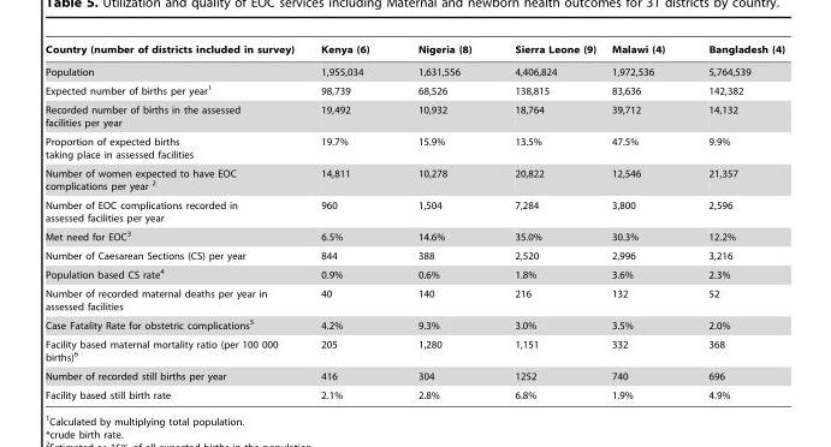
<table><thead><tr><td>Country (number of districts included in survey)</td><td>Kenya (6)</td><td>Nigeria (8)</td><td>Sierra Leone (9)</td><td>Malawi (4)</td><td>Bangladesh (4)</td></tr></thead><tbody><tr><td>Population</td><td>1,955,034</td><td>1,631,556</td><td>4,406,824</td><td>1,972,536</td><td>5,764,539</td></tr><tr><td>Expected number of births per year<sup>1</sup></td><td>98,739</td><td>68,526</td><td>138,815</td><td>83,636</td><td>142,382</td></tr><tr><td>Recorded number of births in the assessed facilities per year</td><td>19,492</td><td>10,932</td><td>18,764</td><td>39,712</td><td>14,132</td></tr><tr><td>Proportion of expected births taking place in assessed facilities</td><td>19.7%</td><td>15.9%</td><td>13.5%</td><td>47.5%</td><td>9.9%</td></tr><tr><td>Number of women expected to have EOC complications per year 2</td><td>14,811</td><td>10,278</td><td>20,822</td><td>12,546</td><td>21,357</td></tr><tr><td>Number of EOC complications recorded in assessed facilities per year</td><td>960</td><td>1,504</td><td>7,284</td><td>3,800</td><td>2,596</td></tr><tr><td>Met need for EOC<sup>3</sup></td><td>6.5%</td><td>14.6%</td><td>35.0%</td><td>30.3%</td><td>12.2%</td></tr><tr><td>Number of Caesarean Sections (CS) per year</td><td>844</td><td>388</td><td>2,520</td><td>2,996</td><td>3,216</td></tr><tr><td>Population based CS rate<sup>4</sup></td><td>0.9%</td><td>0.6%</td><td>1.8%</td><td>3.6%</td><td>2.3%</td></tr><tr><td>Number of recorded maternal deaths per year in assessed facilities</td><td>40</td><td>140</td><td>216</td><td>132</td><td>52</td></tr><tr><td>Case Fatality Rate for obstetric complications<sup>5</sup></td><td>4.2%</td><td>9.3%</td><td>3.0%</td><td>3.5%</td><td>2.0%</td></tr><tr><td>Facility based maternal mortality ratio (per 100 000 births)<sup>6</sup></td><td>205</td><td>1,280</td><td>1,151</td><td>332</td><td>368</td></tr><tr><td>Number of recorded still births per year</td><td>416</td><td>304</td><td>1252</td><td>740</td><td>696</td></tr><tr><td>Facility based still birth rate</td><td>2.1%</td><td>2.8%</td><td>6.8%</td><td>1.9%</td><td>4.9%</td></tr></tbody></table>